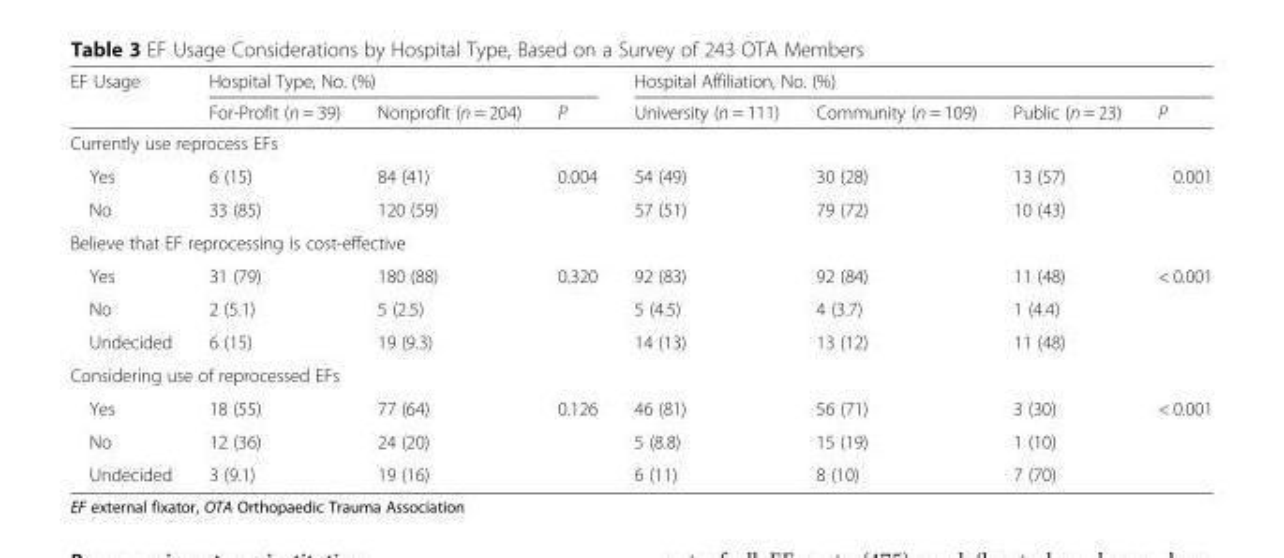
<table><thead><tr><td rowspan="2">EF Usage</td><td colspan="3">Hospital Type, No. (%)</td><td colspan="4">Hospital Affiliation, No. (%)</td></tr><tr><td>For-Profit (n = 39)</td><td>Nonprofit (n = 204)</td><td>P</td><td>University (n = 111)</td><td>Community (n = 109)</td><td>Public (n = 23)</td><td>P</td></tr></thead><tbody><tr><td colspan="8">Currently use reprocess EFs</td></tr><tr><td>Yes</td><td>6 (15)</td><td>84 (41)</td><td rowspan="2">0.004</td><td>54 (49)</td><td>30 (28)</td><td>13 (57)</td><td rowspan="2">0.001</td></tr><tr><td>No</td><td>33 (85)</td><td>120 (59)</td><td>57 (51)</td><td>79 (72)</td><td>10 (43)</td></tr><tr><td colspan="8">Believe that EF reprocessing is cost-effective</td></tr><tr><td>Yes</td><td>31 (79)</td><td>180 (88)</td><td rowspan="3">0.320</td><td>92 (83)</td><td>92 (84)</td><td>11 (48)</td><td rowspan="3">&lt; 0.001</td></tr><tr><td>No</td><td>2 (5.1)</td><td>5 (2.5)</td><td>5 (4.5)</td><td>4 (3.7)</td><td>1 (4.4)</td></tr><tr><td>Undecided</td><td>6 (15)</td><td>19 (9.3)</td><td>14 (13)</td><td>13 (12)</td><td>11 (48)</td></tr><tr><td colspan="8">Considering use of reprocessed EFs</td></tr><tr><td>Yes</td><td>18 (55)</td><td>77 (64)</td><td rowspan="3">0.126</td><td>46 (81)</td><td>56 (71)</td><td>3 (30)</td><td rowspan="3">&lt; 0.001</td></tr><tr><td>No</td><td>12 (36)</td><td>24 (20)</td><td>5 (8.8)</td><td>15 (19)</td><td>1 (10)</td></tr><tr><td>Undecided</td><td>3 (9.1)</td><td>19 (16)</td><td>6 (11)</td><td>8 (10)</td><td>7 (70)</td></tr></tbody></table>